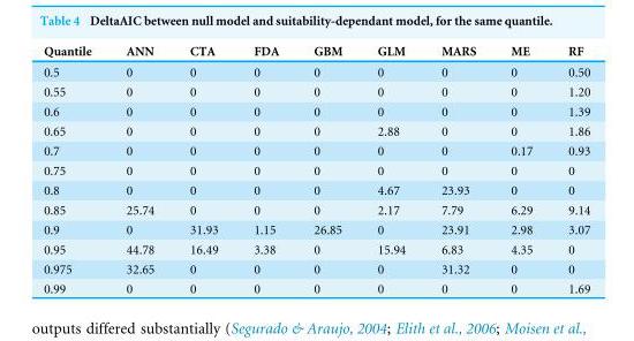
<table><thead><tr><td>Quantile</td><td>ANN</td><td>CTA</td><td>FDA</td><td>GBM</td><td>GLM</td><td>MARS</td><td>ME</td><td>RF</td></tr></thead><tbody><tr><td>0.5</td><td>0</td><td>0</td><td>0</td><td>0</td><td>0</td><td>0</td><td>0</td><td>0.50</td></tr><tr><td>0.55</td><td>0</td><td>0</td><td>0</td><td>0</td><td>0</td><td>0</td><td>0</td><td>1.20</td></tr><tr><td>0.6</td><td>0</td><td>0</td><td>0</td><td>0</td><td>0</td><td>0</td><td>0</td><td>1.39</td></tr><tr><td>0.65</td><td>0</td><td>0</td><td>0</td><td>0</td><td>2.88</td><td>0</td><td>0</td><td>1.86</td></tr><tr><td>0.7</td><td>0</td><td>0</td><td>0</td><td>0</td><td>0</td><td>0</td><td>0.17</td><td>0.93</td></tr><tr><td>0.75</td><td>0</td><td>0</td><td>0</td><td>0</td><td>0</td><td>0</td><td>0</td><td>0</td></tr><tr><td>0.8</td><td>0</td><td>0</td><td>0</td><td>0</td><td>4.67</td><td>23.93</td><td>0</td><td>0</td></tr><tr><td>0.85</td><td>25.74</td><td>0</td><td>0</td><td>0</td><td>2.17</td><td>7.79</td><td>6.29</td><td>9.14</td></tr><tr><td>0.9</td><td>0</td><td>31.93</td><td>1.15</td><td>26.85</td><td>0</td><td>23.91</td><td>2.98</td><td>3.07</td></tr><tr><td>0.95</td><td>44.78</td><td>16.49</td><td>3.38</td><td>0</td><td>15.94</td><td>6.83</td><td>4.35</td><td>0</td></tr><tr><td>0.975</td><td>32.65</td><td>0</td><td>0</td><td>0</td><td>0</td><td>31.32</td><td>0</td><td>0</td></tr><tr><td>0.99</td><td>0</td><td>0</td><td>0</td><td>0</td><td>0</td><td>0</td><td>0</td><td>1.69</td></tr></tbody></table>